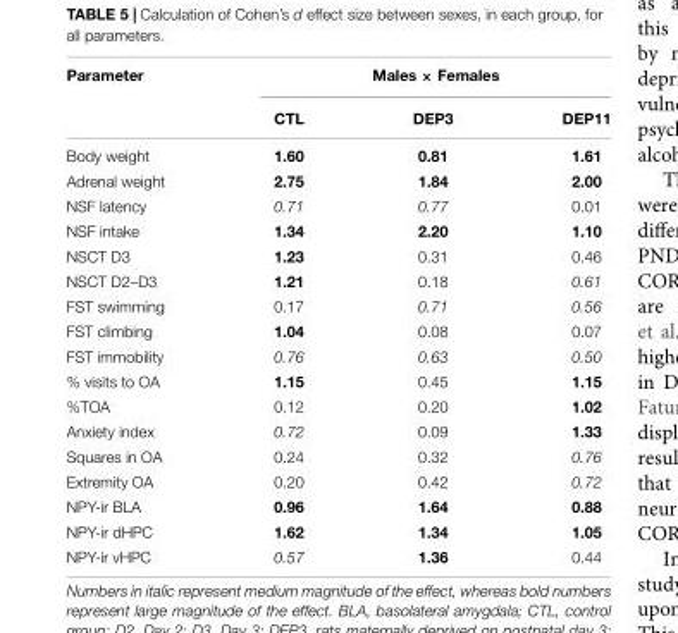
<table><thead><tr><td rowspan="2">Parameter</td><td colspan="3">Males × Females</td></tr><tr><td>CTL</td><td>DEP3</td><td>DEP11</td></tr></thead><tbody><tr><td>Body weight</td><td>1.60</td><td>0.81</td><td>1.61</td></tr><tr><td>Adrenal weight</td><td>2.75</td><td>1.84</td><td>2.00</td></tr><tr><td>NSF latency</td><td>0.71</td><td>0.77</td><td>0.01</td></tr><tr><td>NSF intake</td><td>1.34</td><td>2.20</td><td>1.10</td></tr><tr><td>NSCT D3</td><td>1.23</td><td>0.31</td><td>0.46</td></tr><tr><td>NSCT D2–D3</td><td>1.21</td><td>0.18</td><td>0.61</td></tr><tr><td>FST swimming</td><td>0.17</td><td>0.71</td><td>0.56</td></tr><tr><td>FST climbing</td><td>1.04</td><td>0.08</td><td>0.07</td></tr><tr><td>FST immobility</td><td>0.76</td><td>0.63</td><td>0.50</td></tr><tr><td>% visits to OA</td><td>1.15</td><td>0.45</td><td>1.15</td></tr><tr><td>%TOA</td><td>0.12</td><td>0.20</td><td>1.02</td></tr><tr><td>Anxiety index</td><td>0.72</td><td>0.09</td><td>1.33</td></tr><tr><td>Squares in OA</td><td>0.24</td><td>0.32</td><td>0.76</td></tr><tr><td>Extremity OA</td><td>0.20</td><td>0.42</td><td>0.72</td></tr><tr><td>NPY-ir BLA</td><td>0.96</td><td>1.64</td><td>0.88</td></tr><tr><td>NPY-ir dHPC</td><td>1.62</td><td>1.34</td><td>1.05</td></tr><tr><td>NPY-ir vHPC</td><td>0.57</td><td>1.36</td><td>0.44</td></tr></tbody></table>